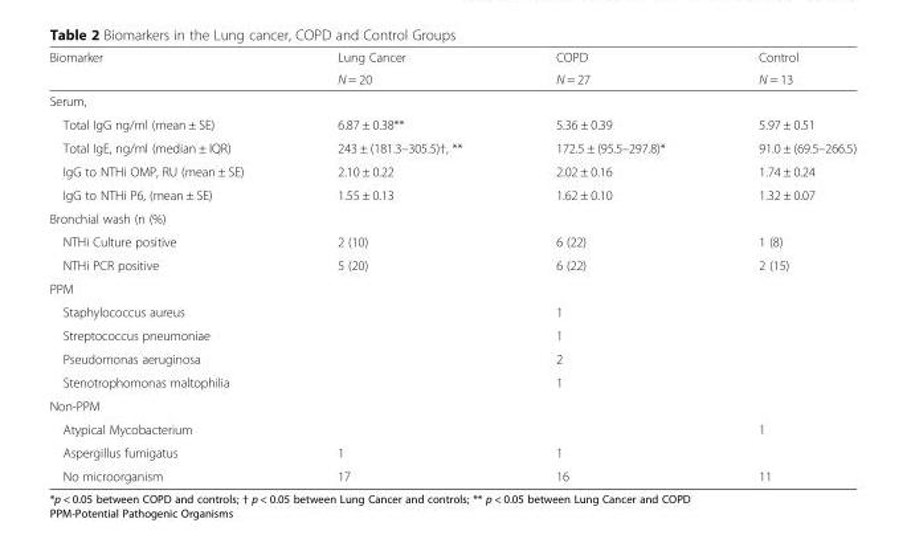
<table><thead><tr><td rowspan="2">Biomarker</td><td rowspan="2">Lung Cancer N = 20</td><td rowspan="2">COPD N = 27</td><td rowspan="2">Control N = 13</td></tr><tr></tr></thead><tbody><tr><td colspan="4">Serum,</td></tr><tr><td>Total IgG ng/ml (mean ± SE)</td><td>6.87 ± 0.38**</td><td>5.36 ± 0.39</td><td>5.97 ± 0.51</td></tr><tr><td>Total IgE, ng/ml (median ± IQR)</td><td>243 ± (181.3–305.5)†, **</td><td>172.5 ± (95.5–297.8)*</td><td>91.0 ± (69.5–266.5)</td></tr><tr><td>IgG to NTHi OMP, RU (mean ± SE)</td><td>2.10 ± 0.22</td><td>2.02 ± 0.16</td><td>1.74 ± 0.24</td></tr><tr><td>IgG to NTHi P6, (mean ± SE)</td><td>1.55 ± 0.13</td><td>1.62 ± 0.10</td><td>1.32 ± 0.07</td></tr><tr><td colspan="4">Bronchial wash (n (%)</td></tr><tr><td>NTHi Culture positive</td><td>2 (10)</td><td>6 (22)</td><td>1 (8)</td></tr><tr><td>NTHi PCR positive</td><td>5 (20)</td><td>6 (22)</td><td>2 (15)</td></tr><tr><td colspan="4">PPM</td></tr><tr><td>Staphylococcus aureus</td><td></td><td>1</td><td></td></tr><tr><td>Streptococcus pneumoniae</td><td></td><td>1</td><td></td></tr><tr><td>Pseudomonas aeruginosa</td><td></td><td>2</td><td></td></tr><tr><td>Stenotrophomonas maltophilia</td><td></td><td>1</td><td></td></tr><tr><td colspan="4">Non-PPM</td></tr><tr><td>Atypical Mycobacterium</td><td></td><td></td><td>1</td></tr><tr><td>Aspergillus fumigatus</td><td>1</td><td>1</td><td></td></tr><tr><td>No microorganism</td><td>17</td><td>16</td><td>11</td></tr></tbody></table>